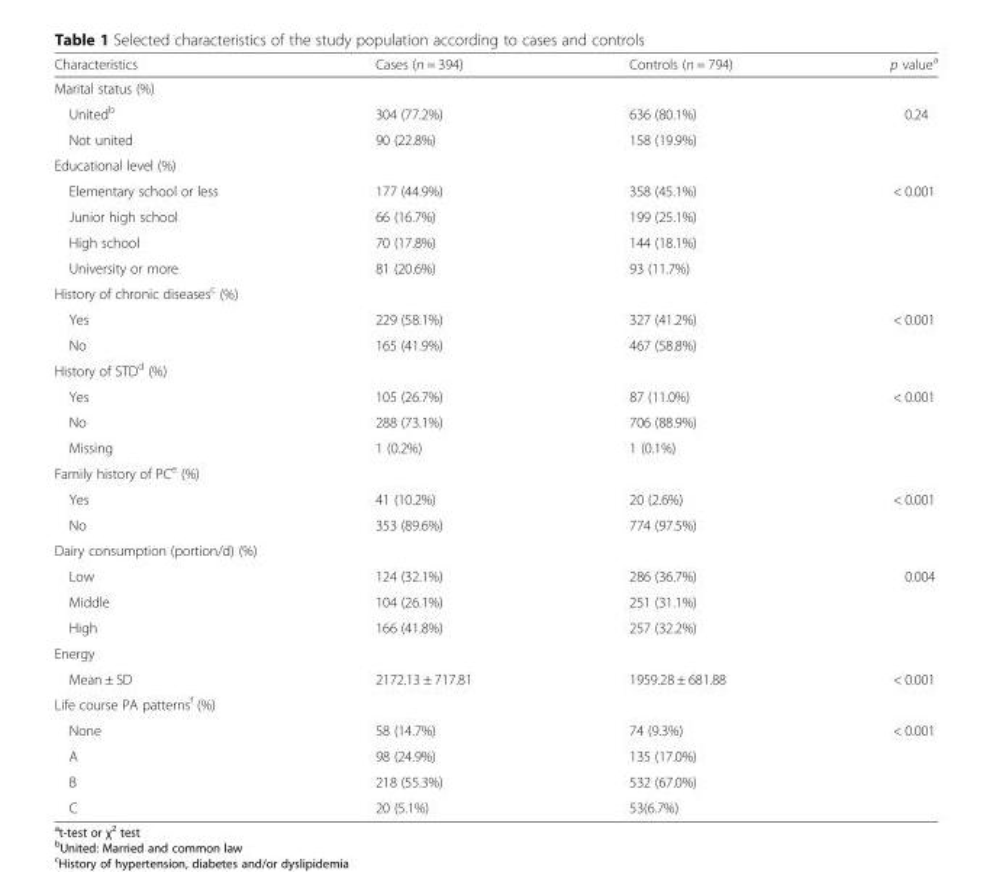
<table><thead><tr><td>Characteristics</td><td>Cases (n = 394)</td><td>Controls (n = 794)</td><td>p value<sup>a</sup></td></tr></thead><tbody><tr><td colspan="4">Marital status (%)</td></tr><tr><td>United<sup>b</sup></td><td>304 (77.2%)</td><td>636 (80.1%)</td><td rowspan="2">0.24</td></tr><tr><td>Not united</td><td>90 (22.8%)</td><td>158 (19.9%)</td></tr><tr><td colspan="4">Educational level (%)</td></tr><tr><td>Elementary school or less</td><td>177 (44.9%)</td><td>358 (45.1%)</td><td rowspan="4">&lt; 0.001</td></tr><tr><td>Junior high school</td><td>66 (16.7%)</td><td>199 (25.1%)</td></tr><tr><td>High school</td><td>70 (17.8%)</td><td>144 (18.1%)</td></tr><tr><td>University or more</td><td>81 (20.6%)</td><td>93 (11.7%)</td></tr><tr><td colspan="4">History of chronic diseases<sup>c</sup> (%)</td></tr><tr><td>Yes</td><td>229 (58.1%)</td><td>327 (41.2%)</td><td rowspan="2">&lt; 0.001</td></tr><tr><td>No</td><td>165 (41.9%)</td><td>467 (58.8%)</td></tr><tr><td colspan="4">History of STD<sup>d</sup> (%)</td></tr><tr><td>Yes</td><td>105 (26.7%)</td><td>87 (11.0%)</td><td rowspan="3">&lt; 0.001</td></tr><tr><td>No</td><td>288 (73.1%)</td><td>706 (88.9%)</td></tr><tr><td>Missing</td><td>1 (0.2%)</td><td>1 (0.1%)</td></tr><tr><td colspan="4">Family history of PC<sup>e</sup> (%)</td></tr><tr><td>Yes</td><td>41 (10.2%)</td><td>20 (2.6%)</td><td rowspan="2">&lt; 0.001</td></tr><tr><td>No</td><td>353 (89.6%)</td><td>774 (97.5%)</td></tr><tr><td colspan="4">Dairy consumption (portion/d) (%)</td></tr><tr><td>Low</td><td>124 (32.1%)</td><td>286 (36.7%)</td><td rowspan="3">0.004</td></tr><tr><td>Middle</td><td>104 (26.1%)</td><td>251 (31.1%)</td></tr><tr><td>High</td><td>166 (41.8%)</td><td>257 (32.2%)</td></tr><tr><td colspan="4">Energy</td></tr><tr><td>Mean ± SD</td><td>2172.13 ± 717.81</td><td>1959.28 ± 681.88</td><td>&lt; 0.001</td></tr><tr><td colspan="4">Life course PA patterns<sup>f</sup> (%)</td></tr><tr><td>None</td><td>58 (14.7%)</td><td>74 (9.3%)</td><td rowspan="4">&lt; 0.001</td></tr><tr><td>A</td><td>98 (24.9%)</td><td>135 (17.0%)</td></tr><tr><td>B</td><td>218 (55.3%)</td><td>532 (67.0%)</td></tr><tr><td>C</td><td>20 (5.1%)</td><td>53(6.7%)</td></tr></tbody></table>